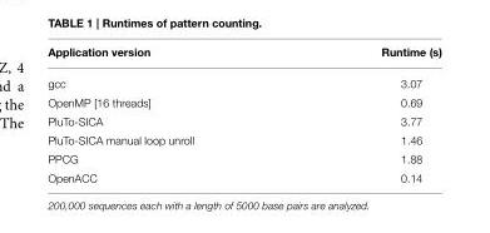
<table><thead><tr><td>Application version</td><td>Runtime (s)</td></tr></thead><tbody><tr><td>gcc</td><td>3.07</td></tr><tr><td>OpenMP [16 threads]</td><td>0.69</td></tr><tr><td>PluTo-SICA</td><td>3.77</td></tr><tr><td>PluTo-SICA manual loop unroll</td><td>1.46</td></tr><tr><td>PPCG</td><td>1.88</td></tr><tr><td>OpenACC</td><td>0.14</td></tr></tbody></table>